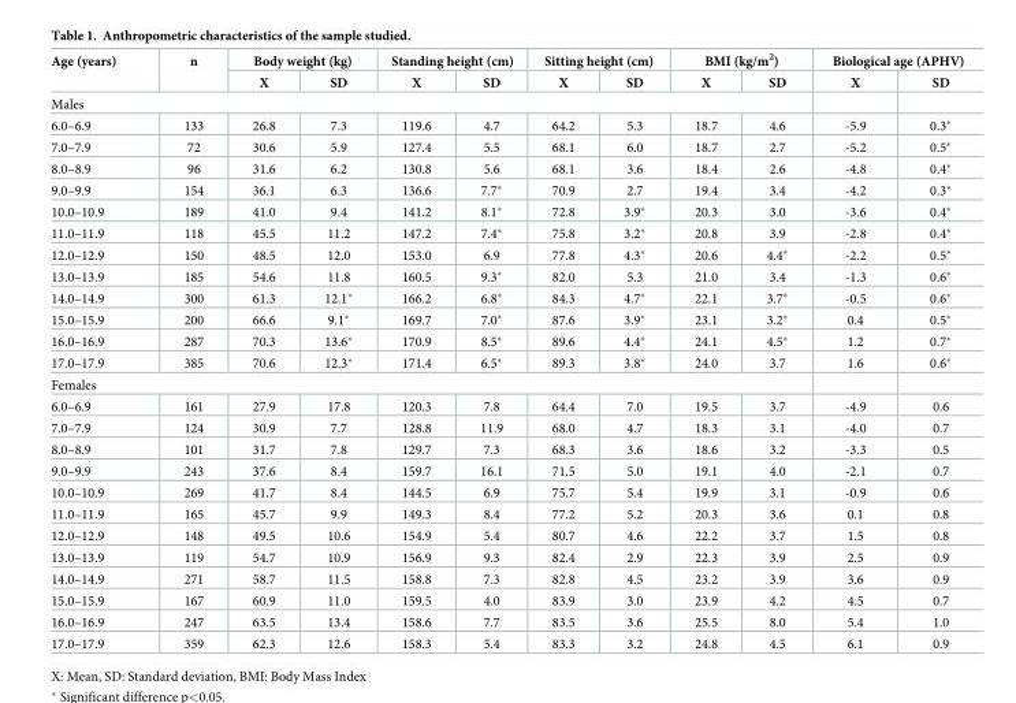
<table><thead><tr><td rowspan="2">Age (years)</td><td rowspan="2">n</td><td colspan="2">Body weight (kg)</td><td colspan="2">Standing height (cm)</td><td colspan="2">Sitting height (cm)</td><td colspan="2">BMI (kg/m<sup>2</sup>)</td><td colspan="2">Biological age (APHV)</td></tr><tr><td>X</td><td>SD</td><td>X</td><td>SD</td><td>X</td><td>SD</td><td>X</td><td>SD</td><td>X</td><td>SD</td></tr></thead><tbody><tr><td colspan="12">Males</td></tr><tr><td>6.0–6.9</td><td>133</td><td>26.8</td><td>7.3</td><td>119.6</td><td>4.7</td><td>64.2</td><td>5.3</td><td>18.7</td><td>4.6</td><td>-5.9</td><td>0.3*</td></tr><tr><td>7.0–7.9</td><td>72</td><td>30.6</td><td>5.9</td><td>127.4</td><td>5.5</td><td>68.1</td><td>6.0</td><td>18.7</td><td>2.7</td><td>-5.2</td><td>0.5*</td></tr><tr><td>8.0–8.9</td><td>96</td><td>31.6</td><td>6.2</td><td>130.8</td><td>5.6</td><td>68.1</td><td>3.6</td><td>18.4</td><td>2.6</td><td>-4.8</td><td>0.4*</td></tr><tr><td>9.0–9.9</td><td>154</td><td>36.1</td><td>6.3</td><td>136.6</td><td>7.7*</td><td>70.9</td><td>2.7</td><td>19.4</td><td>3.4</td><td>-4.2</td><td>0.3*</td></tr><tr><td>10.0–10.9</td><td>189</td><td>41.0</td><td>9.4</td><td>141.2</td><td>8.1*</td><td>72.8</td><td>3.9*</td><td>20.3</td><td>3.0</td><td>-3.6</td><td>0.4*</td></tr><tr><td>11.0–11.9</td><td>118</td><td>45.5</td><td>11.2</td><td>147.2</td><td>7.4*</td><td>75.8</td><td>3.2*</td><td>20.8</td><td>3.9</td><td>-2.8</td><td>0.4*</td></tr><tr><td>12.0–12.9</td><td>150</td><td>48.5</td><td>12.0</td><td>153.0</td><td>6.9</td><td>77.8</td><td>4.3*</td><td>20.6</td><td>4.4*</td><td>-2.2</td><td>0.5*</td></tr><tr><td>13.0–13.9</td><td>185</td><td>54.6</td><td>11.8</td><td>160.5</td><td>9.3*</td><td>82.0</td><td>5.3</td><td>21.0</td><td>3.4</td><td>-1.3</td><td>0.6*</td></tr><tr><td>14.0–14.9</td><td>300</td><td>61.3</td><td>12.1*</td><td>166.2</td><td>6.8*</td><td>84.3</td><td>4.7*</td><td>22.1</td><td>3.7*</td><td>-0.5</td><td>0.6*</td></tr><tr><td>15.0–15.9</td><td>200</td><td>66.6</td><td>9.1*</td><td>169.7</td><td>7.0*</td><td>87.6</td><td>3.9*</td><td>23.1</td><td>3.2*</td><td>0.4</td><td>0.5*</td></tr><tr><td>16.0–16.9</td><td>287</td><td>70.3</td><td>13.6*</td><td>170.9</td><td>8.5*</td><td>89.6</td><td>4.4*</td><td>24.1</td><td>4.5*</td><td>1.2</td><td>0.7*</td></tr><tr><td>17.0–17.9</td><td>385</td><td>70.6</td><td>12.3*</td><td>171.4</td><td>6.5*</td><td>89.3</td><td>3.8*</td><td>24.0</td><td>3.7</td><td>1.6</td><td>0.6*</td></tr><tr><td colspan="12">Females</td></tr><tr><td>6.0–6.9</td><td>161</td><td>27.9</td><td>17.8</td><td>120.3</td><td>7.8</td><td>64.4</td><td>7.0</td><td>19.5</td><td>3.7</td><td>-4.9</td><td>0.6</td></tr><tr><td>7.0–7.9</td><td>124</td><td>30.9</td><td>7.7</td><td>128.8</td><td>11.9</td><td>68.0</td><td>4.7</td><td>18.3</td><td>3.1</td><td>-4.0</td><td>0.7</td></tr><tr><td>8.0–8.9</td><td>101</td><td>31.7</td><td>7.8</td><td>129.7</td><td>7.3</td><td>68.3</td><td>3.6</td><td>18.6</td><td>3.2</td><td>-3.3</td><td>0.5</td></tr><tr><td>9.0–9.9</td><td>243</td><td>37.6</td><td>8.4</td><td>159.7</td><td>16.1</td><td>71.5</td><td>5.0</td><td>19.1</td><td>4.0</td><td>-2.1</td><td>0.7</td></tr><tr><td>10.0–10.9</td><td>269</td><td>41.7</td><td>8.4</td><td>144.5</td><td>6.9</td><td>75.7</td><td>5.4</td><td>19.9</td><td>3.1</td><td>-0.9</td><td>0.6</td></tr><tr><td>11.0–11.9</td><td>165</td><td>45.7</td><td>9.9</td><td>149.3</td><td>8.4</td><td>77.2</td><td>5.2</td><td>20.3</td><td>3.6</td><td>0.1</td><td>0.8</td></tr><tr><td>12.0–12.9</td><td>148</td><td>49.5</td><td>10.6</td><td>154.9</td><td>5.4</td><td>80.7</td><td>4.6</td><td>22.2</td><td>3.7</td><td>1.5</td><td>0.8</td></tr><tr><td>13.0–13.9</td><td>119</td><td>54.7</td><td>10.9</td><td>156.9</td><td>9.3</td><td>82.4</td><td>2.9</td><td>22.3</td><td>3.9</td><td>2.5</td><td>0.9</td></tr><tr><td>14.0–14.9</td><td>271</td><td>58.7</td><td>11.5</td><td>158.8</td><td>7.3</td><td>82.8</td><td>4.5</td><td>23.2</td><td>3.9</td><td>3.6</td><td>0.9</td></tr><tr><td>15.0–15.9</td><td>167</td><td>60.9</td><td>11.0</td><td>159.5</td><td>4.0</td><td>83.9</td><td>3.0</td><td>23.9</td><td>4.2</td><td>4.5</td><td>0.7</td></tr><tr><td>16.0–16.9</td><td>247</td><td>63.5</td><td>13.4</td><td>158.6</td><td>7.7</td><td>83.5</td><td>3.6</td><td>25.5</td><td>8.0</td><td>5.4</td><td>1.0</td></tr><tr><td>17.0–17.9</td><td>359</td><td>62.3</td><td>12.6</td><td>158.3</td><td>5.4</td><td>83.3</td><td>3.2</td><td>24.8</td><td>4.5</td><td>6.1</td><td>0.9</td></tr></tbody></table>